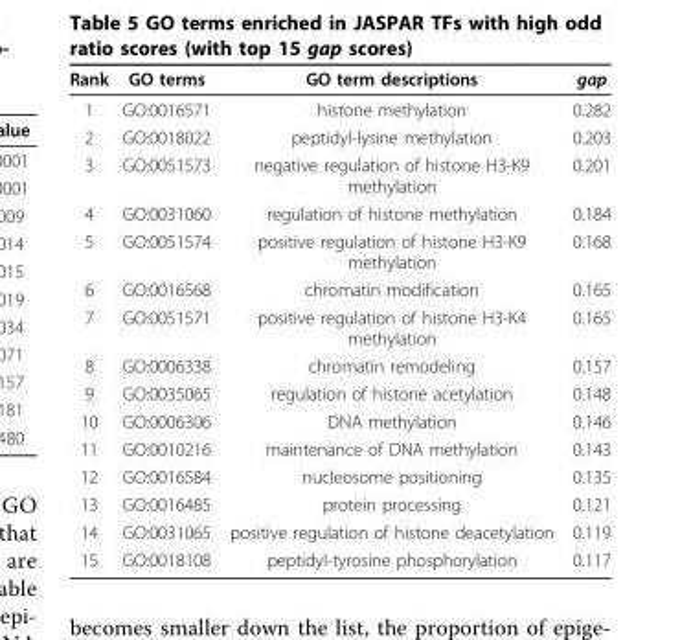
<table><thead><tr><td>Rank</td><td>GO terms</td><td>GO term descriptions</td><td>gap</td></tr></thead><tbody><tr><td>1</td><td>GO:0016571</td><td>histone methylation</td><td>0.282</td></tr><tr><td>2</td><td>GO:0018022</td><td>peptidyl-lysine methylation</td><td>0.203</td></tr><tr><td>3</td><td>GO:0051573</td><td>negative regulation of histone H3-K9 methylation</td><td>0.201</td></tr><tr><td>4</td><td>GO:0031060</td><td>regulation of histone methylation</td><td>0.184</td></tr><tr><td>5</td><td>GO:0051574</td><td>positive regulation of histone H3-K9 methylation</td><td>0.168</td></tr><tr><td>6</td><td>GO:0016568</td><td>chromatin modification</td><td>0.165</td></tr><tr><td>7</td><td>GO:0051571</td><td>positive regulation of histone H3-K4 methylation</td><td>0.165</td></tr><tr><td>8</td><td>GO:0006338</td><td>chromatin remodeling</td><td>0.157</td></tr><tr><td>9</td><td>GO:0035065</td><td>regulation of histone acetylation</td><td>0.148</td></tr><tr><td>10</td><td>GO:0006306</td><td>DNA methylation</td><td>0.146</td></tr><tr><td>11</td><td>GO:0010216</td><td>maintenance of DNA methylation</td><td>0.143</td></tr><tr><td>12</td><td>GO:0016584</td><td>nucleosome positioning</td><td>0.135</td></tr><tr><td>13</td><td>GO:0016485</td><td>protein processing</td><td>0.121</td></tr><tr><td>14</td><td>GO:0031065</td><td>positive regulation of histone deacetylation</td><td>0.119</td></tr><tr><td>15</td><td>GO:0018108</td><td>peptidyl-tyrosine phosphorylation</td><td>0.117</td></tr></tbody></table>